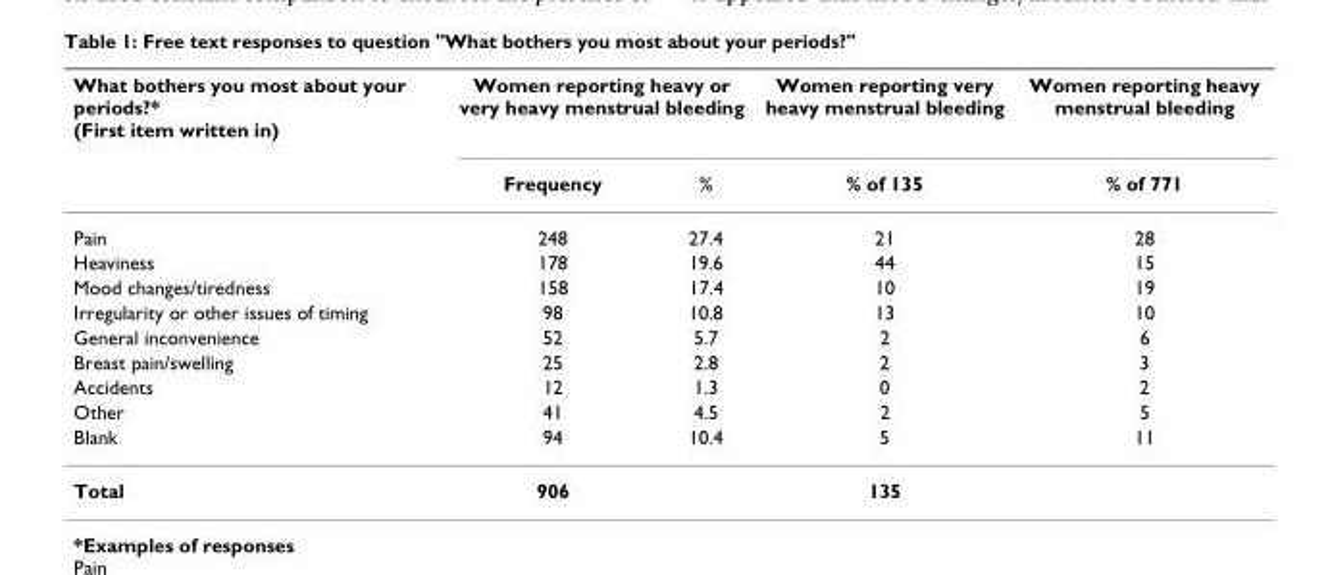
<table><thead><tr><td rowspan="2">What bothers you most about your periods?* (First item written in)</td><td colspan="2">Women reporting heavy or very heavy menstrual bleeding</td><td rowspan="2">Women reporting very heavy menstrual bleeding % of 135</td><td rowspan="2">Women reporting heavy menstrual bleeding % of 771</td></tr><tr><td>Frequency</td><td>%</td></tr></thead><tbody><tr><td>Pain</td><td>248</td><td>27.4</td><td>21</td><td>28</td></tr><tr><td>Heaviness</td><td>178</td><td>19.6</td><td>44</td><td>15</td></tr><tr><td>Mood changes/tiredness</td><td>158</td><td>17.4</td><td>10</td><td>19</td></tr><tr><td>Irregularity or other issues of timing</td><td>98</td><td>10.8</td><td>13</td><td>10</td></tr><tr><td>General inconvenience</td><td>52</td><td>5.7</td><td>2</td><td>6</td></tr><tr><td>Breast pain/swelling</td><td>25</td><td>2.8</td><td>2</td><td>3</td></tr><tr><td>Accidents</td><td>12</td><td>1.3</td><td>0</td><td>2</td></tr><tr><td>Other</td><td>41</td><td>4.5</td><td>2</td><td>5</td></tr><tr><td>Blank</td><td>94</td><td>10.4</td><td>5</td><td>11</td></tr><tr><td>Total</td><td>906</td><td></td><td>135</td><td></td></tr></tbody></table>